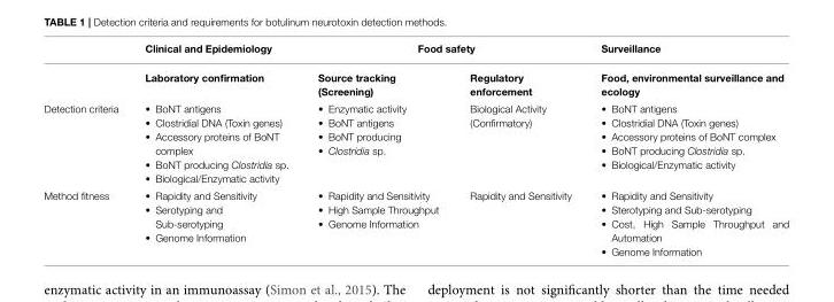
<table><thead><tr><td rowspan="2"></td><td rowspan="2">Clinical and Epidemiology Laboratory confirmation</td><td colspan="2">Food safety</td><td rowspan="2">Surveillance Food, environmental surveillance and ecology</td></tr><tr><td>Source tracking (Screening)</td><td>Regulatory enforcement</td></tr></thead><tbody><tr><td>Detection criteria</td><td>• BoNT antigens • Clostridial DNA (Toxin genes) • Accessory proteins of BoNT complex • BoNT producing Clostridia sp. • Biological/Enzymatic activity</td><td>• Enzymatic activity • BoNT antigens • BoNT producing • Clostridia sp.</td><td>Biological Activity (Confirmatory)</td><td>• BoNT antigens • Clostridial DNA (Toxin genes) • Accessory proteins of BoNT complex • BoNT producing Clostridia sp. • Biological/Enzymatic activity</td></tr><tr><td>Method fitness</td><td>• Rapidity and Sensitivity • Serotyping and Sub-serotyping • Genome Information</td><td>• Rapidity and Sensitivity • High Sample Throughput • Genome Information</td><td>Rapidity and Sensitivity</td><td>• Rapidity and Sensitivity • Sterotyping and Sub-serotyping • Cost, High Sample Throughput and Automation • Genome Information</td></tr></tbody></table>